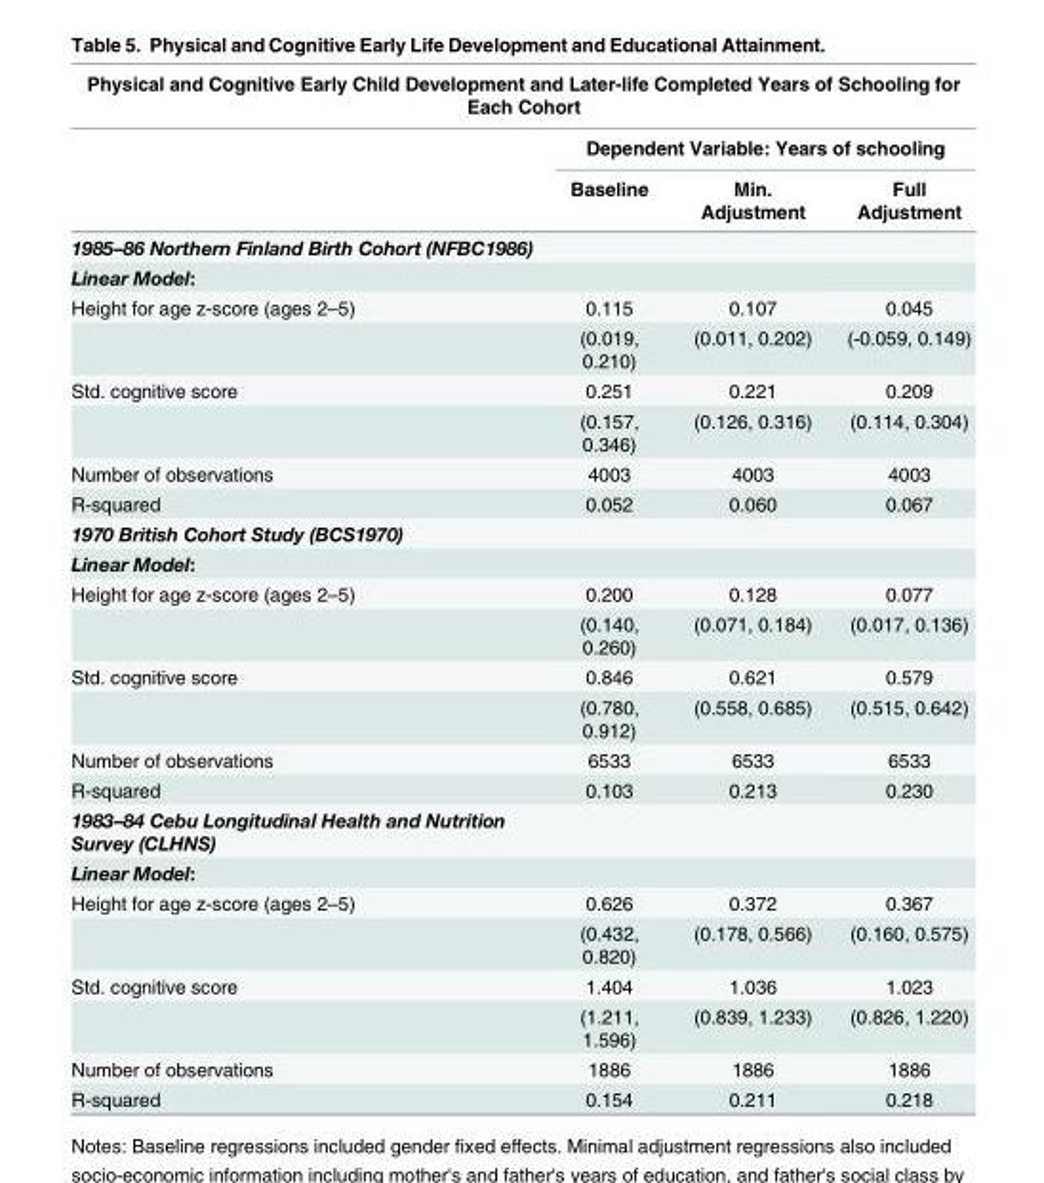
<table><thead><tr><td colspan="4">Physical and Cognitive Early Child Development and Later-life Completed Years of Schooling for Each Cohort</td></tr><tr><td rowspan="2"></td><td colspan="3">Dependent Variable: Years of schooling</td></tr><tr><td>Baseline</td><td>Min. Adjustment</td><td>Full Adjustment</td></tr></thead><tbody><tr><td colspan="4">1985–86 Northern Finland Birth Cohort (NFBC1986)</td></tr><tr><td colspan="4">Linear Model:</td></tr><tr><td rowspan="2">Height for age z-score (ages 2–5)</td><td>0.115</td><td>0.107</td><td>0.045</td></tr><tr><td>(0.019, 0.210)</td><td>(0.011, 0.202)</td><td>(-0.059, 0.149)</td></tr><tr><td rowspan="2">Std. cognitive score</td><td>0.251</td><td>0.221</td><td>0.209</td></tr><tr><td>(0.157, 0.346)</td><td>(0.126, 0.316)</td><td>(0.114, 0.304)</td></tr><tr><td>Number of observations</td><td>4003</td><td>4003</td><td>4003</td></tr><tr><td>R-squared</td><td>0.052</td><td>0.060</td><td>0.067</td></tr><tr><td colspan="4">1970 British Cohort Study (BCS1970)</td></tr><tr><td colspan="4">Linear Model:</td></tr><tr><td rowspan="2">Height for age z-score (ages 2–5)</td><td>0.200</td><td>0.128</td><td>0.077</td></tr><tr><td>(0.140, 0.260)</td><td>(0.071, 0.184)</td><td>(0.017, 0.136)</td></tr><tr><td rowspan="2">Std. cognitive score</td><td>0.846</td><td>0.621</td><td>0.579</td></tr><tr><td>(0.780, 0.912)</td><td>(0.558, 0.685)</td><td>(0.515, 0.642)</td></tr><tr><td>Number of observations</td><td>6533</td><td>6533</td><td>6533</td></tr><tr><td>R-squared</td><td>0.103</td><td>0.213</td><td>0.230</td></tr><tr><td colspan="4">1983–84 Cebu Longitudinal Health and Nutrition Survey (CLHNS)</td></tr><tr><td colspan="4">Linear Model:</td></tr><tr><td rowspan="2">Height for age z-score (ages 2–5)</td><td>0.626</td><td>0.372</td><td>0.367</td></tr><tr><td>(0.432, 0.820)</td><td>(0.178, 0.566)</td><td>(0.160, 0.575)</td></tr><tr><td rowspan="2">Std. cognitive score</td><td>1.404</td><td>1.036</td><td>1.023</td></tr><tr><td>(1.211, 1.596)</td><td>(0.839, 1.233)</td><td>(0.826, 1.220)</td></tr><tr><td>Number of observations</td><td>1886</td><td>1886</td><td>1886</td></tr><tr><td>R-squared</td><td>0.154</td><td>0.211</td><td>0.218</td></tr></tbody></table>